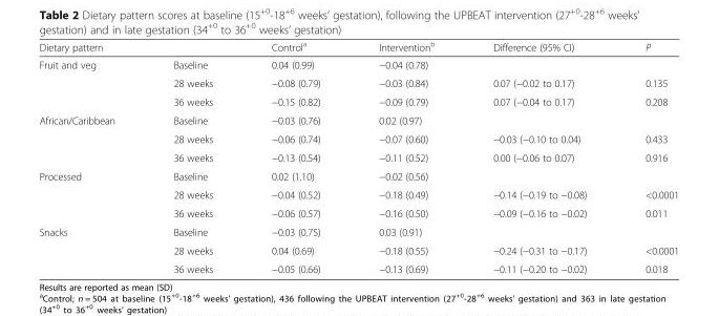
<table><thead><tr><td>Dietary pattern</td><td></td><td>Control<sup>a</sup></td><td>Intervention<sup>b</sup></td><td>Difference (95% CI)</td><td>P</td></tr></thead><tbody><tr><td rowspan="3">Fruit and veg</td><td>Baseline</td><td>0.04 (0.99)</td><td>−0.04 (0.78)</td><td></td><td></td></tr><tr><td>28 weeks</td><td>−0.08 (0.79)</td><td>−0.03 (0.84)</td><td>0.07 (−0.02 to 0.17)</td><td>0.135</td></tr><tr><td>36 weeks</td><td>−0.15 (0.82)</td><td>−0.09 (0.79)</td><td>0.07 (−0.04 to 0.17)</td><td>0.208</td></tr><tr><td rowspan="3">African/Caribbean</td><td>Baseline</td><td>−0.03 (0.76)</td><td>0.02 (0.97)</td><td></td><td></td></tr><tr><td>28 weeks</td><td>−0.06 (0.74)</td><td>−0.07 (0.60)</td><td>−0.03 (−0.10 to 0.04)</td><td>0.433</td></tr><tr><td>36 weeks</td><td>−0.13 (0.54)</td><td>−0.11 (0.52)</td><td>0.00 (−0.06 to 0.07)</td><td>0.916</td></tr><tr><td rowspan="3">Processed</td><td>Baseline</td><td>0.02 (1.10)</td><td>−0.02 (0.56)</td><td></td><td></td></tr><tr><td>28 weeks</td><td>−0.04 (0.52)</td><td>−0.18 (0.49)</td><td>−0.14 (−0.19 to −0.08)</td><td>&lt;0.0001</td></tr><tr><td>36 weeks</td><td>−0.06 (0.57)</td><td>−0.16 (0.50)</td><td>−0.09 (−0.16 to −0.02)</td><td>0.011</td></tr><tr><td rowspan="3">Snacks</td><td>Baseline</td><td>−0.03 (0.75)</td><td>0.03 (0.91)</td><td></td><td></td></tr><tr><td>28 weeks</td><td>0.04 (0.69)</td><td>−0.18 (0.55)</td><td>−0.24 (−0.31 to −0.17)</td><td>&lt;0.0001</td></tr><tr><td>36 weeks</td><td>−0.05 (0.66)</td><td>−0.13 (0.69)</td><td>−0.11 (−0.20 to −0.02)</td><td>0.018</td></tr></tbody></table>